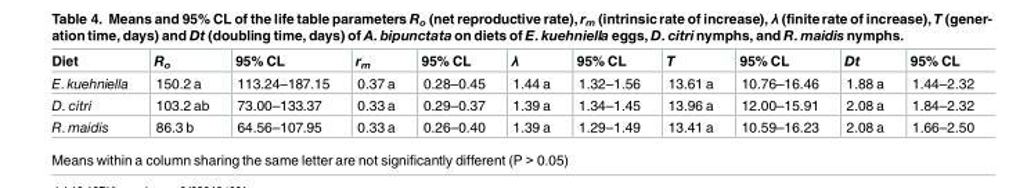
<table><thead><tr><td>Diet</td><td>R<sub>o</sub></td><td>95% CL</td><td>r<sub>m</sub></td><td>95% CL</td><td>λ</td><td>95% CL</td><td>T</td><td>95% CL</td><td>Dt</td><td>95% CL</td></tr></thead><tbody><tr><td>E. kuehniella</td><td>150.2 a</td><td>113.24–187.15</td><td>0.37 a</td><td>0.28–0.45</td><td>1.44 a</td><td>1.32–1.56</td><td>13.61 a</td><td>10.76–16.46</td><td>1.88 a</td><td>1.44–2.32</td></tr><tr><td>D. citri</td><td>103.2 ab</td><td>73.00–133.37</td><td>0.33 a</td><td>0.29–0.37</td><td>1.39 a</td><td>1.34–1.45</td><td>13.96 a</td><td>12.00–15.91</td><td>2.08 a</td><td>1.84–2.32</td></tr><tr><td>R. maidis</td><td>86.3 b</td><td>64.56–107.95</td><td>0.33 a</td><td>0.26–0.40</td><td>1.39 a</td><td>1.29–1.49</td><td>13.41 a</td><td>10.59–16.23</td><td>2.08 a</td><td>1.66–2.50</td></tr></tbody></table>